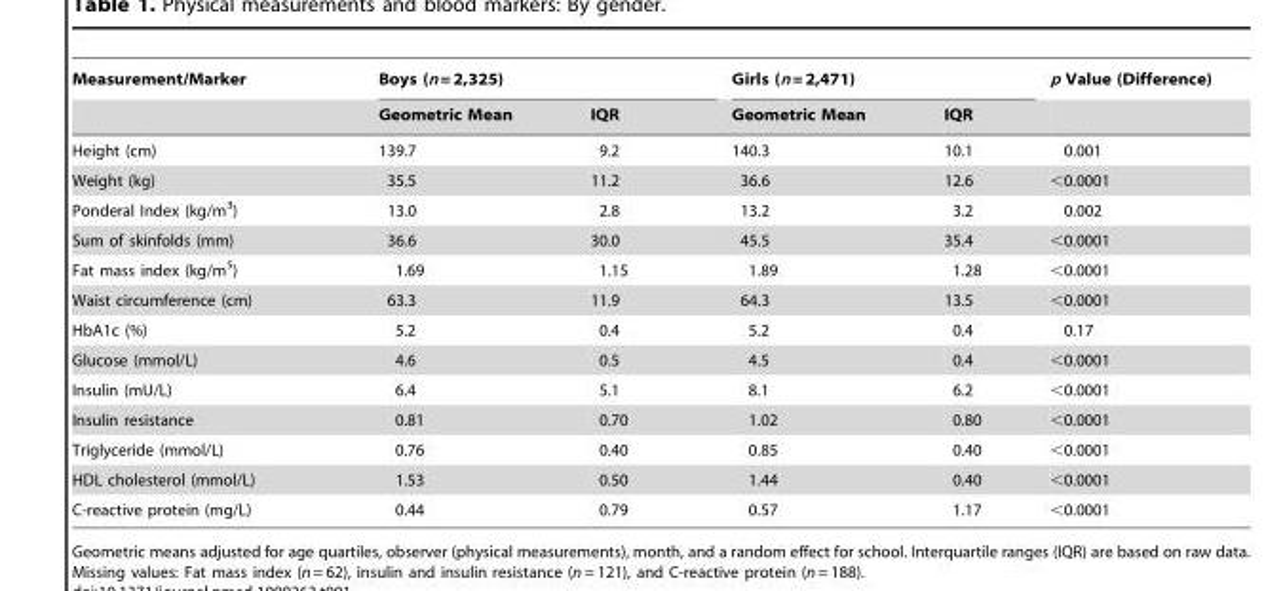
<table><thead><tr><td rowspan="2">Measurement/Marker</td><td colspan="2">Boys (n = 2,325)</td><td colspan="2">Girls (n = 2,471)</td><td rowspan="2">p Value (Difference)</td></tr><tr><td>Geometric Mean</td><td>IQR</td><td>Geometric Mean</td><td>IQR</td></tr></thead><tbody><tr><td>Height (cm)</td><td>139.7</td><td>9.2</td><td>140.3</td><td>10.1</td><td>0.001</td></tr><tr><td>Weight (kg)</td><td>35.5</td><td>11.2</td><td>36.6</td><td>12.6</td><td>&lt;0.0001</td></tr><tr><td>Ponderal Index (kg/m<sup>3</sup>)</td><td>13.0</td><td>2.8</td><td>13.2</td><td>3.2</td><td>0.002</td></tr><tr><td>Sum of skinfolds (mm)</td><td>36.6</td><td>30.0</td><td>45.5</td><td>35.4</td><td>&lt;0.0001</td></tr><tr><td>Fat mass index (kg/m<sup>5</sup>)</td><td>1.69</td><td>1.15</td><td>1.89</td><td>1.28</td><td>&lt;0.0001</td></tr><tr><td>Waist circumference (cm)</td><td>63.3</td><td>11.9</td><td>64.3</td><td>13.5</td><td>&lt;0.0001</td></tr><tr><td>HbA1c (%)</td><td>5.2</td><td>0.4</td><td>5.2</td><td>0.4</td><td>0.17</td></tr><tr><td>Glucose (mmol/L)</td><td>4.6</td><td>0.5</td><td>4.5</td><td>0.4</td><td>&lt;0.0001</td></tr><tr><td>Insulin (mU/L)</td><td>6.4</td><td>5.1</td><td>8.1</td><td>6.2</td><td>&lt;0.0001</td></tr><tr><td>Insulin resistance</td><td>0.81</td><td>0.70</td><td>1.02</td><td>0.80</td><td>&lt;0.0001</td></tr><tr><td>Triglyceride (mmol/L)</td><td>0.76</td><td>0.40</td><td>0.85</td><td>0.40</td><td>&lt;0.0001</td></tr><tr><td>HDL cholesterol (mmol/L)</td><td>1.53</td><td>0.50</td><td>1.44</td><td>0.40</td><td>&lt;0.0001</td></tr><tr><td>C-reactive protein (mg/L)</td><td>0.44</td><td>0.79</td><td>0.57</td><td>1.17</td><td>&lt;0.0001</td></tr></tbody></table>